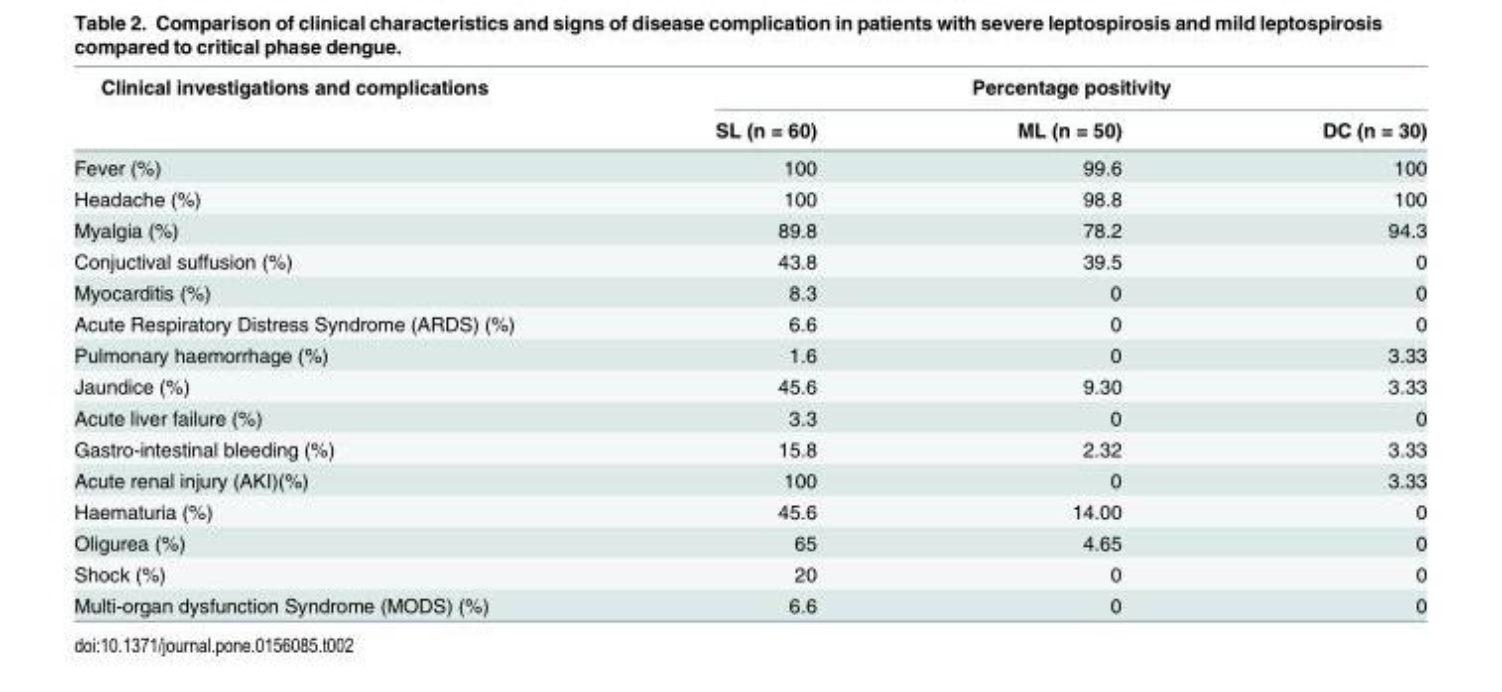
<table><thead><tr><td rowspan="2">Clinical investigations and complications</td><td colspan="3">Percentage positivity</td></tr><tr><td>SL (n = 60)</td><td>ML (n = 50)</td><td>DC (n = 30)</td></tr></thead><tbody><tr><td>Fever (%)</td><td>100</td><td>99.6</td><td>100</td></tr><tr><td>Headache (%)</td><td>100</td><td>98.8</td><td>100</td></tr><tr><td>Myalgia (%)</td><td>89.8</td><td>78.2</td><td>94.3</td></tr><tr><td>Conjuctival suffusion (%)</td><td>43.8</td><td>39.5</td><td>0</td></tr><tr><td>Myocarditis (%)</td><td>8.3</td><td>0</td><td>0</td></tr><tr><td>Acute Respiratory Distress Syndrome (ARDS) (%)</td><td>6.6</td><td>0</td><td>0</td></tr><tr><td>Pulmonary haemorrhage (%)</td><td>1.6</td><td>0</td><td>3.33</td></tr><tr><td>Jaundice (%)</td><td>45.6</td><td>9.30</td><td>3.33</td></tr><tr><td>Acute liver failure (%)</td><td>3.3</td><td>0</td><td>0</td></tr><tr><td>Gastro-intestinal bleeding (%)</td><td>15.8</td><td>2.32</td><td>3.33</td></tr><tr><td>Acute renal injury (AKI)(%)</td><td>100</td><td>0</td><td>3.33</td></tr><tr><td>Haematuria (%)</td><td>45.6</td><td>14.00</td><td>0</td></tr><tr><td>Oligurea (%)</td><td>65</td><td>4.65</td><td>0</td></tr><tr><td>Shock (%)</td><td>20</td><td>0</td><td>0</td></tr><tr><td>Multi-organ dysfunction Syndrome (MODS) (%)</td><td>6.6</td><td>0</td><td>0</td></tr></tbody></table>